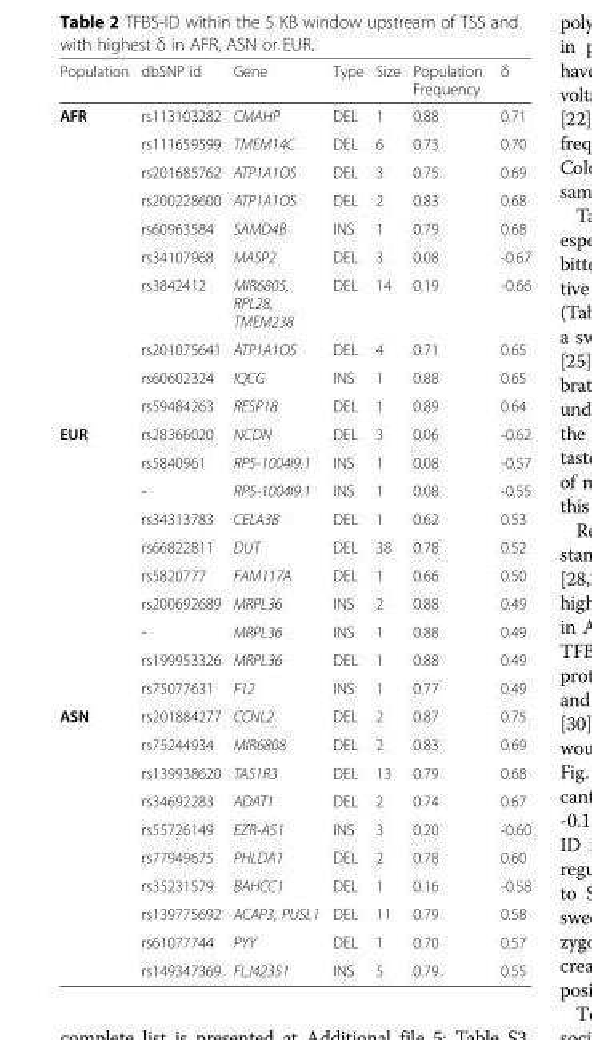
<table><thead><tr><td>Population</td><td>dbSNP id</td><td>Gene</td><td>Type</td><td>Size</td><td>Population Frequency</td><td>δ</td></tr></thead><tbody><tr><td rowspan="10">AFR</td><td>rs113103282</td><td>CMAHP</td><td>DEL</td><td>1</td><td>0.88</td><td>0.71</td></tr><tr><td>rs111659599</td><td>TMEM14C</td><td>DEL</td><td>6</td><td>0.73</td><td>0.70</td></tr><tr><td>rs201685762</td><td>ATP1A1OS</td><td>DEL</td><td>3</td><td>0.75</td><td>0.69</td></tr><tr><td>rs200228600</td><td>ATP1A1OS</td><td>DEL</td><td>2</td><td>0.83</td><td>0.68</td></tr><tr><td>rs60963584</td><td>SAMD4B</td><td>INS</td><td>1</td><td>0.79</td><td>0.68</td></tr><tr><td>rs34107968</td><td>MASP2</td><td>DEL</td><td>3</td><td>0.08</td><td>-0.67</td></tr><tr><td>rs3842412</td><td>MIR6805, RPL28, TMEM238</td><td>DEL</td><td>14</td><td>0.19</td><td>-0.66</td></tr><tr><td>rs201075641</td><td>ATP1A1OS</td><td>DEL</td><td>4</td><td>0.71</td><td>0.65</td></tr><tr><td>rs60602324</td><td>IQCG</td><td>INS</td><td>1</td><td>0.88</td><td>0.65</td></tr><tr><td>rs59484263</td><td>RESP18</td><td>DEL</td><td>1</td><td>0.89</td><td>0.64</td></tr><tr><td rowspan="10">EUR</td><td>rs28366020</td><td>NCDN</td><td>DEL</td><td>3</td><td>0.06</td><td>-0.62</td></tr><tr><td>rs5840961</td><td>RP5-1004I9.1</td><td>INS</td><td>1</td><td>0.08</td><td>-0.57</td></tr><tr><td>-</td><td>RP5-1004I9.1</td><td>INS</td><td>1</td><td>0.08</td><td>-0.55</td></tr><tr><td>rs34313783</td><td>CELA3B</td><td>DEL</td><td>1</td><td>0.62</td><td>0.53</td></tr><tr><td>rs66822811</td><td>DUT</td><td>DEL</td><td>38</td><td>0.78</td><td>0.52</td></tr><tr><td>rs5820777</td><td>FAM117A</td><td>DEL</td><td>1</td><td>0.66</td><td>0.50</td></tr><tr><td>rs200692689</td><td>MRPL36</td><td>INS</td><td>2</td><td>0.88</td><td>0.49</td></tr><tr><td>-</td><td>MRPL36</td><td>INS</td><td>1</td><td>0.88</td><td>0.49</td></tr><tr><td>rs199953326</td><td>MRPL36</td><td>DEL</td><td>1</td><td>0.88</td><td>0.49</td></tr><tr><td>rs75077631</td><td>F12</td><td>INS</td><td>1</td><td>0.77</td><td>0.49</td></tr><tr><td rowspan="10">ASN</td><td>rs201884277</td><td>CCNL2</td><td>DEL</td><td>2</td><td>0.87</td><td>0.75</td></tr><tr><td>rs75244934</td><td>MIR6808</td><td>DEL</td><td>2</td><td>0.83</td><td>0.69</td></tr><tr><td>rs139938620</td><td>TAS1R3</td><td>DEL</td><td>13</td><td>0.79</td><td>0.68</td></tr><tr><td>rs34692283</td><td>ADAT1</td><td>DEL</td><td>2</td><td>0.74</td><td>0.67</td></tr><tr><td>rs55726149</td><td>EZR-AS1</td><td>INS</td><td>3</td><td>0.20</td><td>-0.60</td></tr><tr><td>rs77949675</td><td>PHLDA1</td><td>DEL</td><td>2</td><td>0.78</td><td>0.60</td></tr><tr><td>rs35231579</td><td>BAHCC1</td><td>DEL</td><td>1</td><td>0.16</td><td>-0.58</td></tr><tr><td>rs139775692</td><td>ACAP3, PUSL1</td><td>DEL</td><td>11</td><td>0.79</td><td>0.58</td></tr><tr><td>rs61077744</td><td>PYY</td><td>DEL</td><td>1</td><td>0.70</td><td>0.57</td></tr><tr><td>rs149347369</td><td>FLJ42351</td><td>INS</td><td>5</td><td>0.79</td><td>0.55</td></tr></tbody></table>